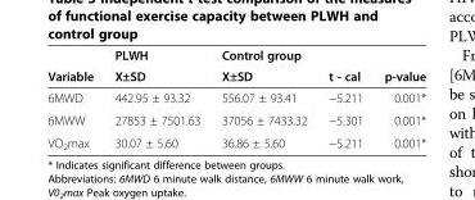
<table><thead><tr><td rowspan="2">Variable</td><td rowspan="2">PLWH X±SD</td><td rowspan="2">Control group X±SD</td><td rowspan="2">t - cal</td><td rowspan="2">p-value</td></tr><tr></tr></thead><tbody><tr><td>6MWD</td><td>442.95 ± 93.32</td><td>556.07 ± 93.41</td><td>−5.211</td><td>0.001*</td></tr><tr><td>6MWW</td><td>27853 ± 7501.63</td><td>37056 ± 7433.32</td><td>−5.301</td><td>0.001*</td></tr><tr><td>VO<sub>2</sub>max</td><td>30.07 ± 5.60</td><td>36.86 ± 5.60</td><td>−5.211</td><td>0.001*</td></tr></tbody></table>